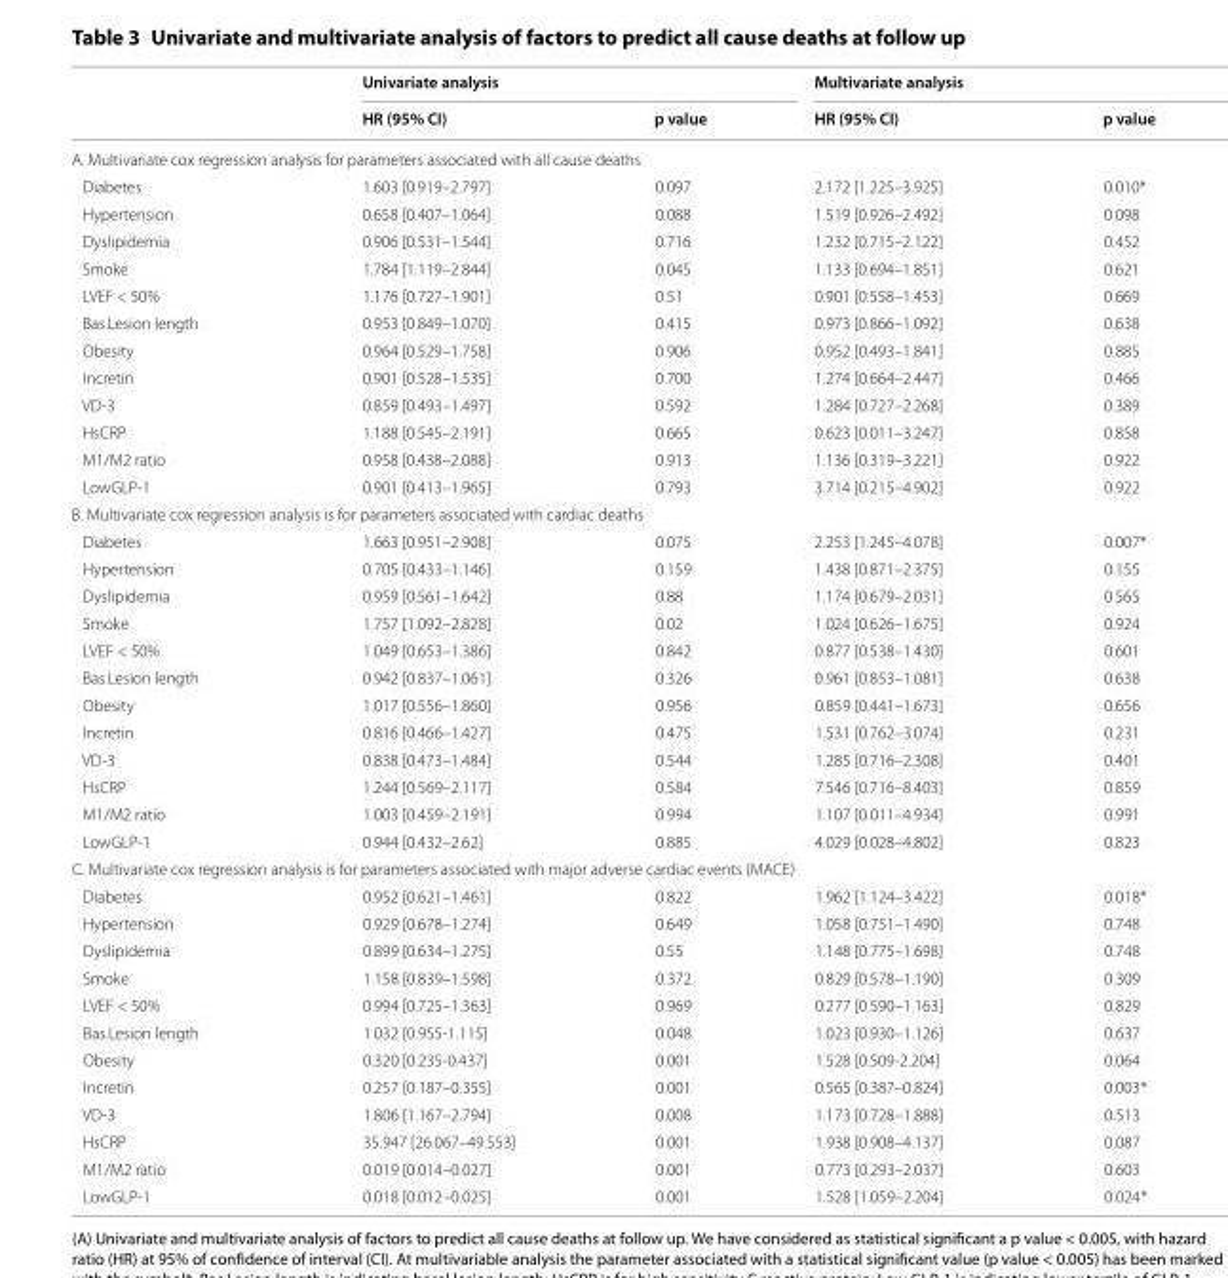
<table><thead><tr><td rowspan="2"></td><td colspan="2">Univariate analysis</td><td colspan="2">Multivariate analysis</td></tr><tr><td>HR (95% CI)</td><td>p value</td><td>HR (95% CI)</td><td>p value</td></tr></thead><tbody><tr><td colspan="5">A. Multivariate cox regression analysis for parameters associated with all cause deaths</td></tr><tr><td>Diabetes</td><td>1.603 [0.919–2.797]</td><td>0.097</td><td>2.172 [1.225–3.925]</td><td>0.010*</td></tr><tr><td>Hypertension</td><td>0.658 [0.407–1.064]</td><td>0.088</td><td>1.519 [0.926–2.492]</td><td>0.098</td></tr><tr><td>Dyslipidemia</td><td>0.906 [0.531–1.544]</td><td>0.716</td><td>1.232 [0.715–2.122]</td><td>0.452</td></tr><tr><td>Smoke</td><td>1.784 [1.119–2.844]</td><td>0.045</td><td>1.133 [0.694–1.851]</td><td>0.621</td></tr><tr><td>LVEF &lt; 50%</td><td>1.176 [0.727–1.901]</td><td>0.51</td><td>0.901 [0.558–1.453]</td><td>0.669</td></tr><tr><td>Bas.Lesion length</td><td>0.953 [0.849–1.070]</td><td>0.415</td><td>0.973 [0.866–1.092]</td><td>0.638</td></tr><tr><td>Obesity</td><td>0.964 [0.529–1.758]</td><td>0.906</td><td>0.952 [0.493–1.841]</td><td>0.885</td></tr><tr><td>Incretin</td><td>0.901 [0.528–1.535]</td><td>0.700</td><td>1.274 [0.664–2.447]</td><td>0.466</td></tr><tr><td>VD-3</td><td>0.859 [0.493–1.497]</td><td>0.592</td><td>1.284 [0.727–2.268]</td><td>0.389</td></tr><tr><td>HsCRP</td><td>1.188 [0.545–2.191]</td><td>0.665</td><td>0.623 [0.011–3.247]</td><td>0.858</td></tr><tr><td>M1/M2 ratio</td><td>0.958 [0.438–2.088]</td><td>0.913</td><td>1.136 [0.319–3.221]</td><td>0.922</td></tr><tr><td>LowGLP-1</td><td>0.901 [0.413–1.965]</td><td>0.793</td><td>3.714 [0.215–4.902]</td><td>0.922</td></tr><tr><td colspan="5">B. Multivariate cox regression analysis is for parameters associated with cardiac deaths</td></tr><tr><td>Diabetes</td><td>1.663 [0.951–2.908]</td><td>0.075</td><td>2.253 [1.245–4.078]</td><td>0.007*</td></tr><tr><td>Hypertension</td><td>0.705 [0.433–1.146]</td><td>0.159</td><td>1.438 [0.871–2.375]</td><td>0.155</td></tr><tr><td>Dyslipidemia</td><td>0.959 [0.561–1.642]</td><td>0.88</td><td>1.174 [0.679–2.031]</td><td>0.565</td></tr><tr><td>Smoke</td><td>1.757 [1.092–2.828]</td><td>0.02</td><td>1.024 [0.626–1.675]</td><td>0.924</td></tr><tr><td>LVEF &lt; 50%</td><td>1.049 [0.653–1.386]</td><td>0.842</td><td>0.877 [0.538–1.430]</td><td>0.601</td></tr><tr><td>Bas.Lesion length</td><td>0.942 [0.837–1.061]</td><td>0.326</td><td>0.961 [0.853–1.081]</td><td>0.638</td></tr><tr><td>Obesity</td><td>1.017 [0.556–1.860]</td><td>0.956</td><td>0.859 [0.441–1.673]</td><td>0.656</td></tr><tr><td>Incretin</td><td>0.816 [0.466–1.427]</td><td>0.475</td><td>1.531 [0.762–3.074]</td><td>0.231</td></tr><tr><td>VD-3</td><td>0.838 [0.473–1.484]</td><td>0.544</td><td>1.285 [0.716–2.308]</td><td>0.401</td></tr><tr><td>HsCRP</td><td>1.244 [0.569–2.117]</td><td>0.584</td><td>7.546 [0.716–8.403]</td><td>0.859</td></tr><tr><td>M1/M2 ratio</td><td>1.003 [0.459–2.191]</td><td>0.994</td><td>1.107 [0.011–4.934]</td><td>0.991</td></tr><tr><td>LowGLP-1</td><td>0.944 [0.432–2.62]</td><td>0.885</td><td>4.029 [0.028–4.802]</td><td>0.823</td></tr><tr><td colspan="5">C. Multivariate cox regression analysis is for parameters associated with major adverse cardiac events (MACE)</td></tr><tr><td>Diabetes</td><td>0.952 [0.621–1.461]</td><td>0.822</td><td>1.962 [1.124–3.422]</td><td>0.018*</td></tr><tr><td>Hypertension</td><td>0.929 [0.678–1.274]</td><td>0.649</td><td>1.058 [0.751–1.490]</td><td>0.748</td></tr><tr><td>Dyslipidemia</td><td>0.899 [0.634–1.275]</td><td>0.55</td><td>1.148 [0.775–1.698]</td><td>0.748</td></tr><tr><td>Smoke</td><td>1.158 [0.839–1.598]</td><td>0.372</td><td>0.829 [0.578–1.190]</td><td>0.309</td></tr><tr><td>LVEF &lt; 50%</td><td>0.994 [0.725–1.363]</td><td>0.969</td><td>0.277 [0.590–1.163]</td><td>0.829</td></tr><tr><td>Bas.Lesion length</td><td>1.032 [0.955-1.115]</td><td>0.048</td><td>1.023 [0.930–1.126]</td><td>0.637</td></tr><tr><td>Obesity</td><td>0.320 [0.235-0.437]</td><td>0.001</td><td>1.528 [0.509-2.204]</td><td>0.064</td></tr><tr><td>Incretin</td><td>0.257 [0.187–0.355]</td><td>0.001</td><td>0.565 [0.387–0.824]</td><td>0.003*</td></tr><tr><td>VD-3</td><td>1.806 [1.167–2.794]</td><td>0.008</td><td>1.173 [0.728–1.888]</td><td>0.513</td></tr><tr><td>HsCRP</td><td>35.947 [26.067–49.553]</td><td>0.001</td><td>1.938 [0.908–4.137]</td><td>0.087</td></tr><tr><td>M1/M2 ratio</td><td>0.019 [0.014–0.027]</td><td>0.001</td><td>0.773 [0.293–2.037]</td><td>0.603</td></tr><tr><td>LowGLP-1</td><td>0.018 [0.012–0.025]</td><td>0.001</td><td>1.528 [1.059–2.204]</td><td>0.024*</td></tr></tbody></table>